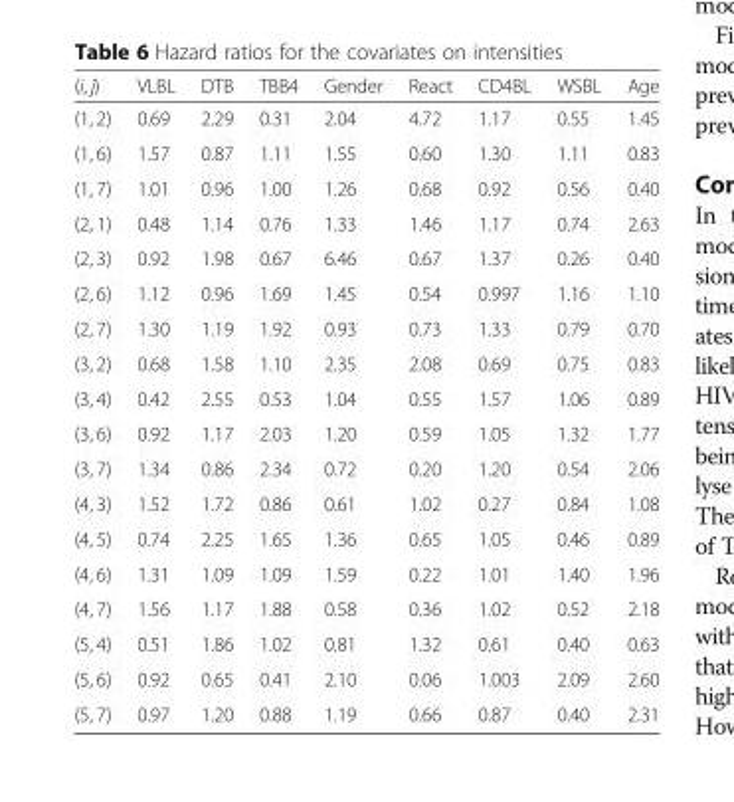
<table><thead><tr><td>(i, j)</td><td>VLBL</td><td>DTB</td><td>TBB4</td><td>Gender</td><td>React</td><td>CD4BL</td><td>WSBL</td><td>Age</td></tr></thead><tbody><tr><td>(1, 2)</td><td>0.69</td><td>2.29</td><td>0.31</td><td>2.04</td><td>4.72</td><td>1.17</td><td>0.55</td><td>1.45</td></tr><tr><td>(1, 6)</td><td>1.57</td><td>0.87</td><td>1.11</td><td>1.55</td><td>0.60</td><td>1.30</td><td>1.11</td><td>0.83</td></tr><tr><td>(1, 7)</td><td>1.01</td><td>0.96</td><td>1.00</td><td>1.26</td><td>0.68</td><td>0.92</td><td>0.56</td><td>0.40</td></tr><tr><td>(2, 1)</td><td>0.48</td><td>1.14</td><td>0.76</td><td>1.33</td><td>1.46</td><td>1.17</td><td>0.74</td><td>2.63</td></tr><tr><td>(2, 3)</td><td>0.92</td><td>1.98</td><td>0.67</td><td>6.46</td><td>0.67</td><td>1.37</td><td>0.26</td><td>0.40</td></tr><tr><td>(2, 6)</td><td>1.12</td><td>0.96</td><td>1.69</td><td>1.45</td><td>0.54</td><td>0.997</td><td>1.16</td><td>1.10</td></tr><tr><td>(2, 7)</td><td>1.30</td><td>1.19</td><td>1.92</td><td>0.93</td><td>0.73</td><td>1.33</td><td>0.79</td><td>0.70</td></tr><tr><td>(3, 2)</td><td>0.68</td><td>1.58</td><td>1.10</td><td>2.35</td><td>2.08</td><td>0.69</td><td>0.75</td><td>0.83</td></tr><tr><td>(3, 4)</td><td>0.42</td><td>2.55</td><td>0.53</td><td>1.04</td><td>0.55</td><td>1.57</td><td>1.06</td><td>0.89</td></tr><tr><td>(3, 6)</td><td>0.92</td><td>1.17</td><td>2.03</td><td>1.20</td><td>0.59</td><td>1.05</td><td>1.32</td><td>1.77</td></tr><tr><td>(3, 7)</td><td>1.34</td><td>0.86</td><td>2.34</td><td>0.72</td><td>0.20</td><td>1.20</td><td>0.54</td><td>2.06</td></tr><tr><td>(4, 3)</td><td>1.52</td><td>1.72</td><td>0.86</td><td>0.61</td><td>1.02</td><td>0.27</td><td>0.84</td><td>1.08</td></tr><tr><td>(4, 5)</td><td>0.74</td><td>2.25</td><td>1.65</td><td>1.36</td><td>0.65</td><td>1.05</td><td>0.46</td><td>0.89</td></tr><tr><td>(4, 6)</td><td>1.31</td><td>1.09</td><td>1.09</td><td>1.59</td><td>0.22</td><td>1.01</td><td>1.40</td><td>1.96</td></tr><tr><td>(4, 7)</td><td>1.56</td><td>1.17</td><td>1.88</td><td>0.58</td><td>0.36</td><td>1.02</td><td>0.52</td><td>2.18</td></tr><tr><td>(5, 4)</td><td>0.51</td><td>1.86</td><td>1.02</td><td>0.81</td><td>1.32</td><td>0.61</td><td>0.40</td><td>0.63</td></tr><tr><td>(5, 6)</td><td>0.92</td><td>0.65</td><td>0.41</td><td>2.10</td><td>0.06</td><td>1.003</td><td>2.09</td><td>2.60</td></tr><tr><td>(5, 7)</td><td>0.97</td><td>1.20</td><td>0.88</td><td>1.19</td><td>0.66</td><td>0.87</td><td>0.40</td><td>2.31</td></tr></tbody></table>